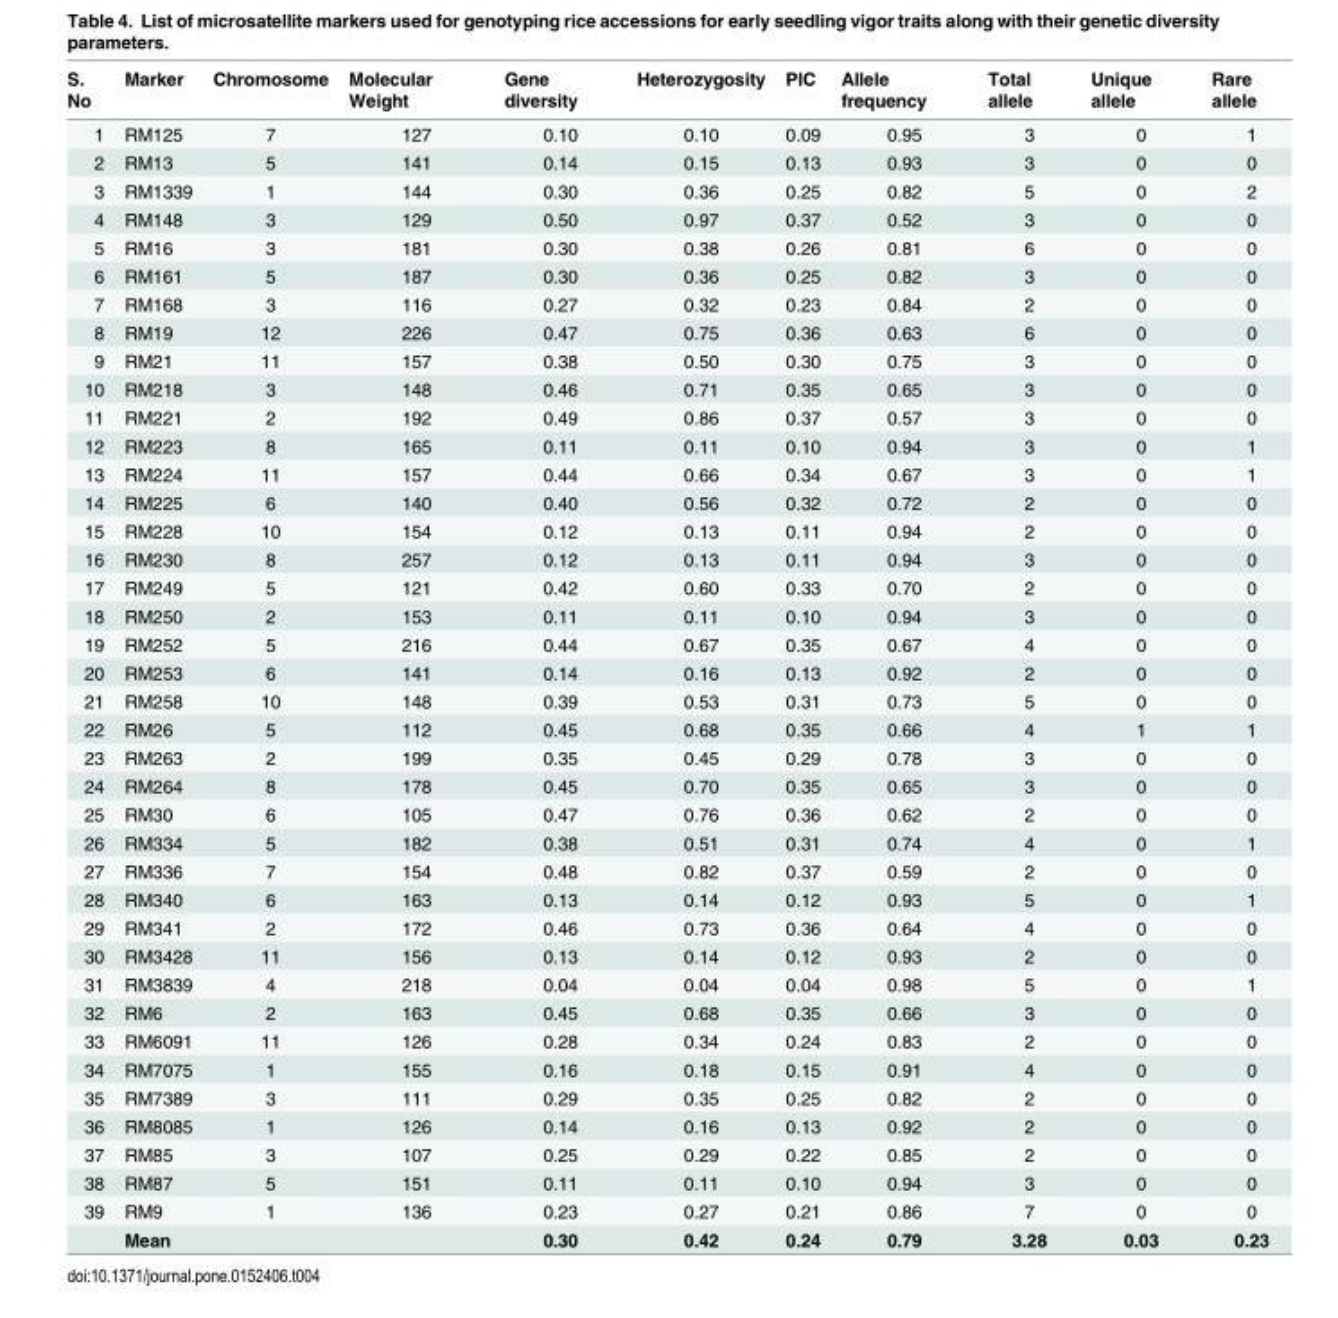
<table><thead><tr><td>S. No</td><td>Marker</td><td>Chromosome</td><td>Molecular Weight</td><td>Gene diversity</td><td>Heterozygosity</td><td>PIC</td><td>Allele frequency</td><td>Total allele</td><td>Unique allele</td><td>Rare allele</td></tr></thead><tbody><tr><td>1</td><td>RM125</td><td>7</td><td>127</td><td>0.10</td><td>0.10</td><td>0.09</td><td>0.95</td><td>3</td><td>0</td><td>1</td></tr><tr><td>2</td><td>RM13</td><td>5</td><td>141</td><td>0.14</td><td>0.15</td><td>0.13</td><td>0.93</td><td>3</td><td>0</td><td>0</td></tr><tr><td>3</td><td>RM1339</td><td>1</td><td>144</td><td>0.30</td><td>0.36</td><td>0.25</td><td>0.82</td><td>5</td><td>0</td><td>2</td></tr><tr><td>4</td><td>RM148</td><td>3</td><td>129</td><td>0.50</td><td>0.97</td><td>0.37</td><td>0.52</td><td>3</td><td>0</td><td>0</td></tr><tr><td>5</td><td>RM16</td><td>3</td><td>181</td><td>0.30</td><td>0.38</td><td>0.26</td><td>0.81</td><td>6</td><td>0</td><td>0</td></tr><tr><td>6</td><td>RM161</td><td>5</td><td>187</td><td>0.30</td><td>0.36</td><td>0.25</td><td>0.82</td><td>3</td><td>0</td><td>0</td></tr><tr><td>7</td><td>RM168</td><td>3</td><td>116</td><td>0.27</td><td>0.32</td><td>0.23</td><td>0.84</td><td>2</td><td>0</td><td>0</td></tr><tr><td>8</td><td>RM19</td><td>12</td><td>226</td><td>0.47</td><td>0.75</td><td>0.36</td><td>0.63</td><td>6</td><td>0</td><td>0</td></tr><tr><td>9</td><td>RM21</td><td>11</td><td>157</td><td>0.38</td><td>0.50</td><td>0.30</td><td>0.75</td><td>3</td><td>0</td><td>0</td></tr><tr><td>10</td><td>RM218</td><td>3</td><td>148</td><td>0.46</td><td>0.71</td><td>0.35</td><td>0.65</td><td>3</td><td>0</td><td>0</td></tr><tr><td>11</td><td>RM221</td><td>2</td><td>192</td><td>0.49</td><td>0.86</td><td>0.37</td><td>0.57</td><td>3</td><td>0</td><td>0</td></tr><tr><td>12</td><td>RM223</td><td>8</td><td>165</td><td>0.11</td><td>0.11</td><td>0.10</td><td>0.94</td><td>3</td><td>0</td><td>1</td></tr><tr><td>13</td><td>RM224</td><td>11</td><td>157</td><td>0.44</td><td>0.66</td><td>0.34</td><td>0.67</td><td>3</td><td>0</td><td>1</td></tr><tr><td>14</td><td>RM225</td><td>6</td><td>140</td><td>0.40</td><td>0.56</td><td>0.32</td><td>0.72</td><td>2</td><td>0</td><td>0</td></tr><tr><td>15</td><td>RM228</td><td>10</td><td>154</td><td>0.12</td><td>0.13</td><td>0.11</td><td>0.94</td><td>2</td><td>0</td><td>0</td></tr><tr><td>16</td><td>RM230</td><td>8</td><td>257</td><td>0.12</td><td>0.13</td><td>0.11</td><td>0.94</td><td>3</td><td>0</td><td>0</td></tr><tr><td>17</td><td>RM249</td><td>5</td><td>121</td><td>0.42</td><td>0.60</td><td>0.33</td><td>0.70</td><td>2</td><td>0</td><td>0</td></tr><tr><td>18</td><td>RM250</td><td>2</td><td>153</td><td>0.11</td><td>0.11</td><td>0.10</td><td>0.94</td><td>3</td><td>0</td><td>0</td></tr><tr><td>19</td><td>RM252</td><td>5</td><td>216</td><td>0.44</td><td>0.67</td><td>0.35</td><td>0.67</td><td>4</td><td>0</td><td>0</td></tr><tr><td>20</td><td>RM253</td><td>6</td><td>141</td><td>0.14</td><td>0.16</td><td>0.13</td><td>0.92</td><td>2</td><td>0</td><td>0</td></tr><tr><td>21</td><td>RM258</td><td>10</td><td>148</td><td>0.39</td><td>0.53</td><td>0.31</td><td>0.73</td><td>5</td><td>0</td><td>0</td></tr><tr><td>22</td><td>RM26</td><td>5</td><td>112</td><td>0.45</td><td>0.68</td><td>0.35</td><td>0.66</td><td>4</td><td>1</td><td>1</td></tr><tr><td>23</td><td>RM263</td><td>2</td><td>199</td><td>0.35</td><td>0.45</td><td>0.29</td><td>0.78</td><td>3</td><td>0</td><td>0</td></tr><tr><td>24</td><td>RM264</td><td>8</td><td>178</td><td>0.45</td><td>0.70</td><td>0.35</td><td>0.65</td><td>3</td><td>0</td><td>0</td></tr><tr><td>25</td><td>RM30</td><td>6</td><td>105</td><td>0.47</td><td>0.76</td><td>0.36</td><td>0.62</td><td>2</td><td>0</td><td>0</td></tr><tr><td>26</td><td>RM334</td><td>5</td><td>182</td><td>0.38</td><td>0.51</td><td>0.31</td><td>0.74</td><td>4</td><td>0</td><td>1</td></tr><tr><td>27</td><td>RM336</td><td>7</td><td>154</td><td>0.48</td><td>0.82</td><td>0.37</td><td>0.59</td><td>2</td><td>0</td><td>0</td></tr><tr><td>28</td><td>RM340</td><td>6</td><td>163</td><td>0.13</td><td>0.14</td><td>0.12</td><td>0.93</td><td>5</td><td>0</td><td>1</td></tr><tr><td>29</td><td>RM341</td><td>2</td><td>172</td><td>0.46</td><td>0.73</td><td>0.36</td><td>0.64</td><td>4</td><td>0</td><td>0</td></tr><tr><td>30</td><td>RM3428</td><td>11</td><td>156</td><td>0.13</td><td>0.14</td><td>0.12</td><td>0.93</td><td>2</td><td>0</td><td>0</td></tr><tr><td>31</td><td>RM3839</td><td>4</td><td>218</td><td>0.04</td><td>0.04</td><td>0.04</td><td>0.98</td><td>5</td><td>0</td><td>1</td></tr><tr><td>32</td><td>RM6</td><td>2</td><td>163</td><td>0.45</td><td>0.68</td><td>0.35</td><td>0.66</td><td>3</td><td>0</td><td>0</td></tr><tr><td>33</td><td>RM6091</td><td>11</td><td>126</td><td>0.28</td><td>0.34</td><td>0.24</td><td>0.83</td><td>2</td><td>0</td><td>0</td></tr><tr><td>34</td><td>RM7075</td><td>1</td><td>155</td><td>0.16</td><td>0.18</td><td>0.15</td><td>0.91</td><td>4</td><td>0</td><td>0</td></tr><tr><td>35</td><td>RM7389</td><td>3</td><td>111</td><td>0.29</td><td>0.35</td><td>0.25</td><td>0.82</td><td>2</td><td>0</td><td>0</td></tr><tr><td>36</td><td>RM8085</td><td>1</td><td>126</td><td>0.14</td><td>0.16</td><td>0.13</td><td>0.92</td><td>2</td><td>0</td><td>0</td></tr><tr><td>37</td><td>RM85</td><td>3</td><td>107</td><td>0.25</td><td>0.29</td><td>0.22</td><td>0.85</td><td>2</td><td>0</td><td>0</td></tr><tr><td>38</td><td>RM87</td><td>5</td><td>151</td><td>0.11</td><td>0.11</td><td>0.10</td><td>0.94</td><td>3</td><td>0</td><td>0</td></tr><tr><td rowspan="2">39</td><td>RM9</td><td>1</td><td>136</td><td>0.23</td><td>0.27</td><td>0.21</td><td>0.86</td><td>7</td><td>0</td><td>0</td></tr><tr><td>Mean</td><td></td><td></td><td>0.30</td><td>0.42</td><td>0.24</td><td>0.79</td><td>3.28</td><td>0.03</td><td>0.23</td></tr></tbody></table>